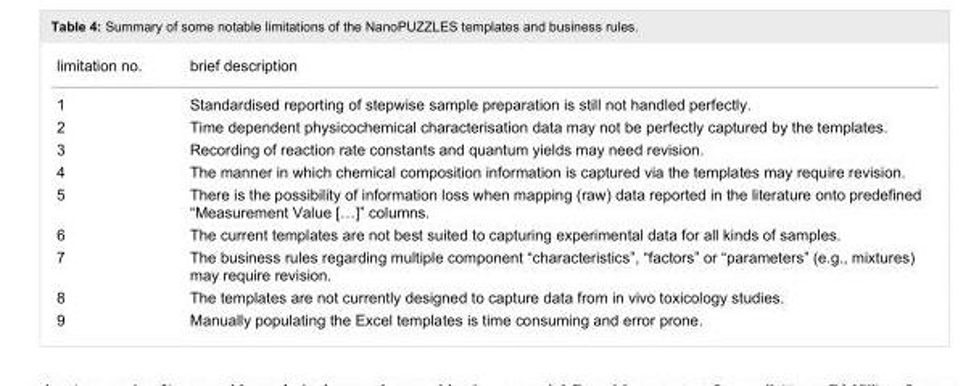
<table><tbody><tr><td>limitation no.</td><td>brief description</td></tr><tr><td>1</td><td>Standardised reporting of stepwise sample preparation is still not handled perfectly.</td></tr><tr><td>2</td><td>Time dependent physicochemical characterisation data may not be perfectly captured by the templates.</td></tr><tr><td>3</td><td>Recording of reaction rate constants and quantum yields may need revision.</td></tr><tr><td>4</td><td>The manner in which chemical composition information is captured via the templates may require revision.</td></tr><tr><td>5</td><td>There is the possibility of information loss when mapping (raw) data reported in the literature onto predefined “Measurement Value […]” columns.</td></tr><tr><td>6</td><td>The current templates are not best suited to capturing experimental data for all kinds of samples.</td></tr><tr><td>7</td><td>The business rules regarding multiple component “characteristics”, “factors” or “parameters” (e.g., mixtures) may require revision.</td></tr><tr><td>8</td><td>The templates are not currently designed to capture data from in vivo toxicology studies.</td></tr><tr><td>9</td><td>Manually populating the Excel templates is time consuming and error prone.</td></tr></tbody></table>